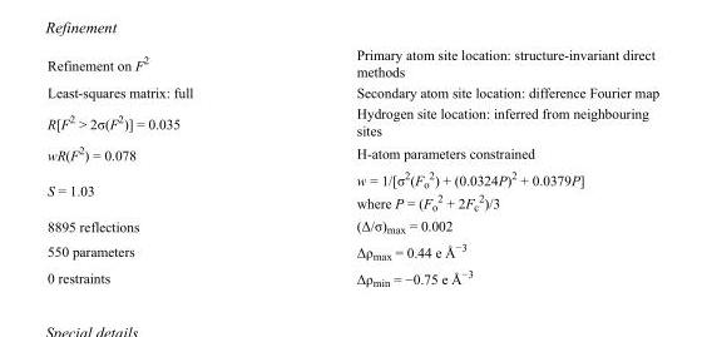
<table><tbody><tr><td>Refinement on F<sup>2</sup></td><td>Primary atom site location: structure-invariant direct methods</td></tr><tr><td>Least-squares matrix: full</td><td>Secondary atom site location: difference Fourier map</td></tr><tr><td>R[F<sup>2</sup> &gt; 2σ(F<sup>2</sup>)] = 0.035</td><td>Hydrogen site location: inferred from neighbouring sites</td></tr><tr><td>wR(F<sup>2</sup>) = 0.078</td><td>H-atom parameters constrained</td></tr><tr><td>S = 1.03</td><td>w = 1/[σ<sup>2</sup>(F<sub>o</sub> <sup>2</sup>) + (0.0324P)<sup>2</sup> + 0.0379P] where P = (F<sub>o</sub> <sup>2</sup> + 2F<sub>c</sub> <sup>2</sup>)/3</td></tr><tr><td>8895 reflections</td><td>(Δ/σ)<sub>max</sub> = 0.002</td></tr><tr><td>550 parameters</td><td>Δρ<sub>max</sub> = 0.44 e Å<sup>−3</sup></td></tr><tr><td>0 restraints</td><td>Δρ<sub>min</sub> = −0.75 e Å<sup>−3</sup></td></tr></tbody></table>